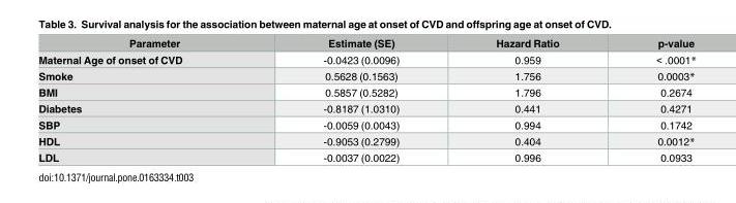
<table><thead><tr><td>Parameter</td><td>Estimate (SE)</td><td>Hazard Ratio</td><td>p-value</td></tr></thead><tbody><tr><td>Maternal Age of onset of CVD</td><td>-0.0423 (0.0096)</td><td>0.959</td><td>&lt; .0001*</td></tr><tr><td>Smoke</td><td>0.5628 (0.1563)</td><td>1.756</td><td>0.0003*</td></tr><tr><td>BMI</td><td>0.5857 (0.5282)</td><td>1.796</td><td>0.2674</td></tr><tr><td>Diabetes</td><td>-0.8187 (1.0310)</td><td>0.441</td><td>0.4271</td></tr><tr><td>SBP</td><td>-0.0059 (0.0043)</td><td>0.994</td><td>0.1742</td></tr><tr><td>HDL</td><td>-0.9053 (0.2799)</td><td>0.404</td><td>0.0012*</td></tr><tr><td>LDL</td><td>-0.0037 (0.0022)</td><td>0.996</td><td>0.0933</td></tr></tbody></table>